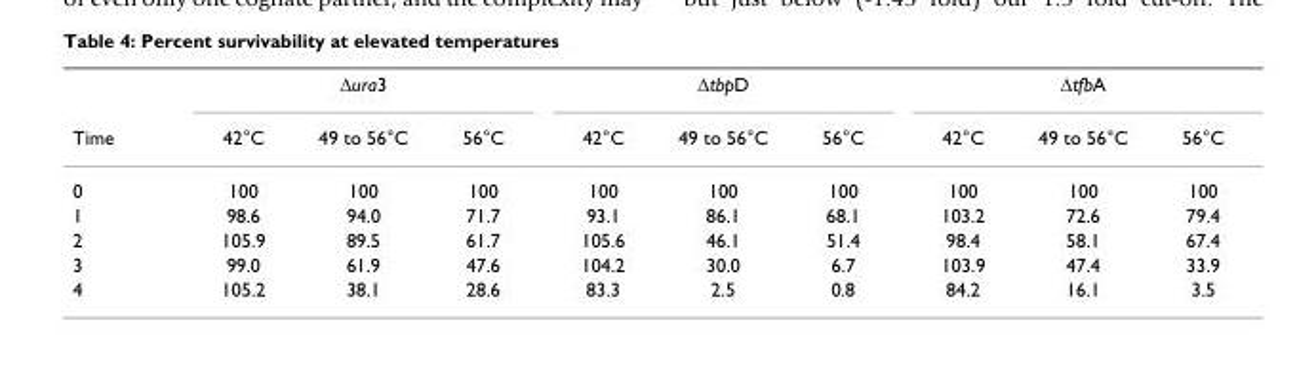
<table><thead><tr><td rowspan="2">Time</td><td colspan="3">∆ura3</td><td colspan="3">∆tbpD</td><td colspan="3">∆tfbA</td></tr><tr><td>42°C</td><td>49 to 56°C</td><td>56°C</td><td>42°C</td><td>49 to 56°C</td><td>56°C</td><td>42°C</td><td>49 to 56°C</td><td>56°C</td></tr></thead><tbody><tr><td>0</td><td>100</td><td>100</td><td>100</td><td>100</td><td>100</td><td>100</td><td>100</td><td>100</td><td>100</td></tr><tr><td>1</td><td>98.6</td><td>94.0</td><td>71.7</td><td>93.1</td><td>86.1</td><td>68.1</td><td>103.2</td><td>72.6</td><td>79.4</td></tr><tr><td>2</td><td>105.9</td><td>89.5</td><td>61.7</td><td>105.6</td><td>46.1</td><td>51.4</td><td>98.4</td><td>58.1</td><td>67.4</td></tr><tr><td>3</td><td>99.0</td><td>61.9</td><td>47.6</td><td>104.2</td><td>30.0</td><td>6.7</td><td>103.9</td><td>47.4</td><td>33.9</td></tr><tr><td>4</td><td>105.2</td><td>38.1</td><td>28.6</td><td>83.3</td><td>2.5</td><td>0.8</td><td>84.2</td><td>16.1</td><td>3.5</td></tr></tbody></table>